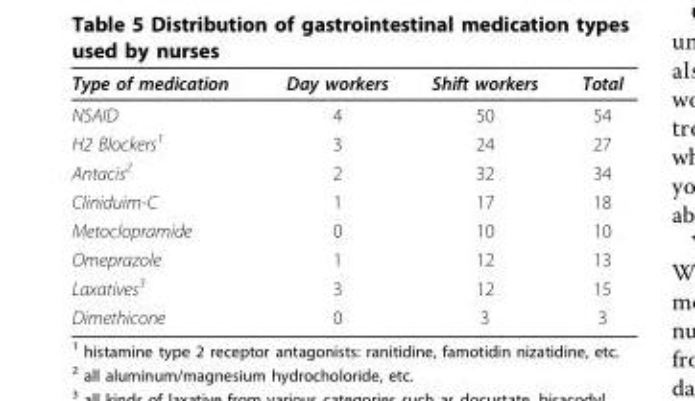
<table><thead><tr><td>Type of medication</td><td>Day workers</td><td>Shift workers</td><td>Total</td></tr></thead><tbody><tr><td>NSAID</td><td>4</td><td>50</td><td>54</td></tr><tr><td>H2 Blockers<sup>1</sup></td><td>3</td><td>24</td><td>27</td></tr><tr><td>Antacis<sup>2</sup></td><td>2</td><td>32</td><td>34</td></tr><tr><td>Cliniduim-C</td><td>1</td><td>17</td><td>18</td></tr><tr><td>Metoclopramide</td><td>0</td><td>10</td><td>10</td></tr><tr><td>Omeprazole</td><td>1</td><td>12</td><td>13</td></tr><tr><td>Laxatives<sup>3</sup></td><td>3</td><td>12</td><td>15</td></tr><tr><td>Dimethicone</td><td>0</td><td>3</td><td>3</td></tr></tbody></table>